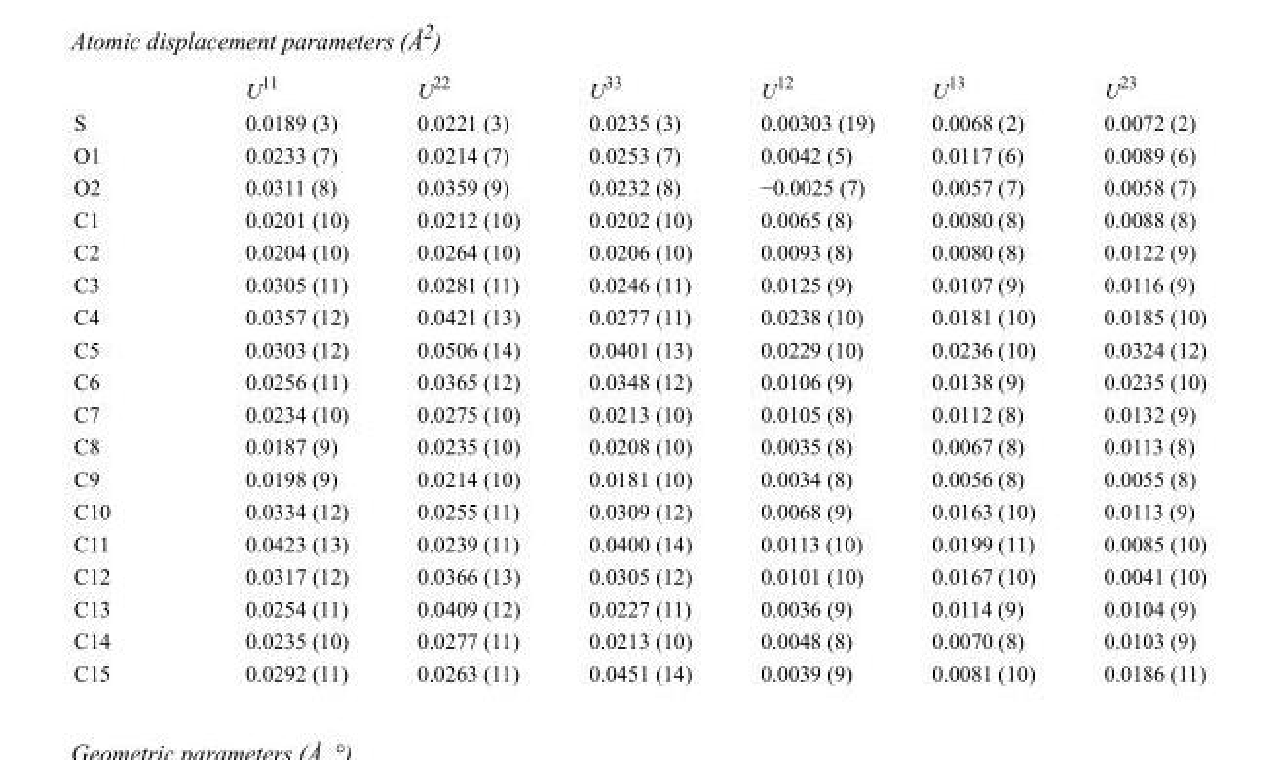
<table><thead><tr><td></td><td>U<sup>11</sup></td><td>U<sup>22</sup></td><td>U<sup>33</sup></td><td>U<sup>12</sup></td><td>U<sup>13</sup></td><td>U<sup>23</sup></td></tr></thead><tbody><tr><td>S</td><td>0.0189 (3)</td><td>0.0221 (3)</td><td>0.0235 (3)</td><td>0.00303 (19)</td><td>0.0068 (2)</td><td>0.0072 (2)</td></tr><tr><td>O1</td><td>0.0233 (7)</td><td>0.0214 (7)</td><td>0.0253 (7)</td><td>0.0042 (5)</td><td>0.0117 (6)</td><td>0.0089 (6)</td></tr><tr><td>O2</td><td>0.0311 (8)</td><td>0.0359 (9)</td><td>0.0232 (8)</td><td>−0.0025 (7)</td><td>0.0057 (7)</td><td>0.0058 (7)</td></tr><tr><td>C1</td><td>0.0201 (10)</td><td>0.0212 (10)</td><td>0.0202 (10)</td><td>0.0065 (8)</td><td>0.0080 (8)</td><td>0.0088 (8)</td></tr><tr><td>C2</td><td>0.0204 (10)</td><td>0.0264 (10)</td><td>0.0206 (10)</td><td>0.0093 (8)</td><td>0.0080 (8)</td><td>0.0122 (9)</td></tr><tr><td>C3</td><td>0.0305 (11)</td><td>0.0281 (11)</td><td>0.0246 (11)</td><td>0.0125 (9)</td><td>0.0107 (9)</td><td>0.0116 (9)</td></tr><tr><td>C4</td><td>0.0357 (12)</td><td>0.0421 (13)</td><td>0.0277 (11)</td><td>0.0238 (10)</td><td>0.0181 (10)</td><td>0.0185 (10)</td></tr><tr><td>C5</td><td>0.0303 (12)</td><td>0.0506 (14)</td><td>0.0401 (13)</td><td>0.0229 (10)</td><td>0.0236 (10)</td><td>0.0324 (12)</td></tr><tr><td>C6</td><td>0.0256 (11)</td><td>0.0365 (12)</td><td>0.0348 (12)</td><td>0.0106 (9)</td><td>0.0138 (9)</td><td>0.0235 (10)</td></tr><tr><td>C7</td><td>0.0234 (10)</td><td>0.0275 (10)</td><td>0.0213 (10)</td><td>0.0105 (8)</td><td>0.0112 (8)</td><td>0.0132 (9)</td></tr><tr><td>C8</td><td>0.0187 (9)</td><td>0.0235 (10)</td><td>0.0208 (10)</td><td>0.0035 (8)</td><td>0.0067 (8)</td><td>0.0113 (8)</td></tr><tr><td>C9</td><td>0.0198 (9)</td><td>0.0214 (10)</td><td>0.0181 (10)</td><td>0.0034 (8)</td><td>0.0056 (8)</td><td>0.0055 (8)</td></tr><tr><td>C10</td><td>0.0334 (12)</td><td>0.0255 (11)</td><td>0.0309 (12)</td><td>0.0068 (9)</td><td>0.0163 (10)</td><td>0.0113 (9)</td></tr><tr><td>C11</td><td>0.0423 (13)</td><td>0.0239 (11)</td><td>0.0400 (14)</td><td>0.0113 (10)</td><td>0.0199 (11)</td><td>0.0085 (10)</td></tr><tr><td>C12</td><td>0.0317 (12)</td><td>0.0366 (13)</td><td>0.0305 (12)</td><td>0.0101 (10)</td><td>0.0167 (10)</td><td>0.0041 (10)</td></tr><tr><td>C13</td><td>0.0254 (11)</td><td>0.0409 (12)</td><td>0.0227 (11)</td><td>0.0036 (9)</td><td>0.0114 (9)</td><td>0.0104 (9)</td></tr><tr><td>C14</td><td>0.0235 (10)</td><td>0.0277 (11)</td><td>0.0213 (10)</td><td>0.0048 (8)</td><td>0.0070 (8)</td><td>0.0103 (9)</td></tr><tr><td>C15</td><td>0.0292 (11)</td><td>0.0263 (11)</td><td>0.0451 (14)</td><td>0.0039 (9)</td><td>0.0081 (10)</td><td>0.0186 (11)</td></tr></tbody></table>